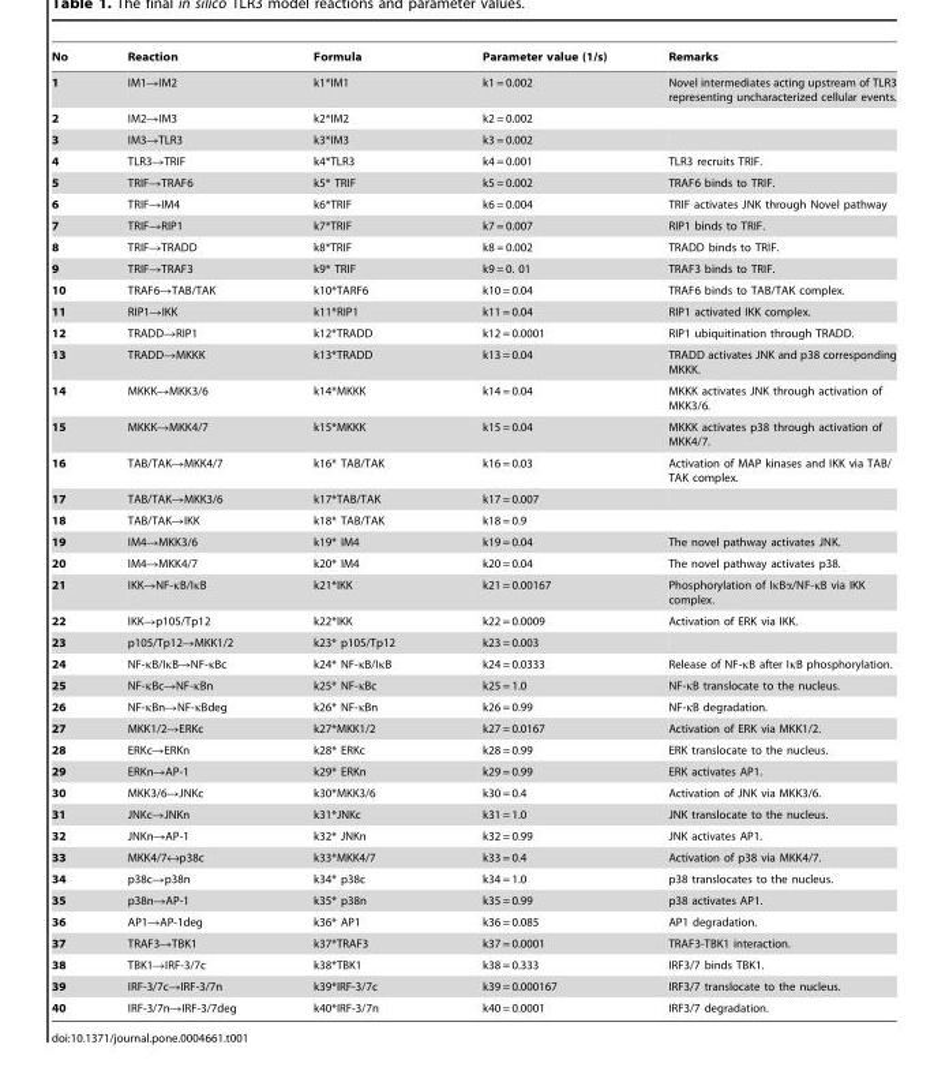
<table><thead><tr><td>No</td><td>Reaction</td><td>Formula</td><td>Parameter value (1/s)</td><td>Remarks</td></tr></thead><tbody><tr><td>1</td><td>IM1→IM2</td><td>k1*IM1</td><td>k1 = 0.002</td><td>Novel intermediates acting upstream of TLR3 representing uncharacterized cellular events.</td></tr><tr><td>2</td><td>IM2→IM3</td><td>k2*IM2</td><td>k2 = 0.002</td><td></td></tr><tr><td>3</td><td>IM3→TLR3</td><td>k3*IM3</td><td>k3 = 0.002</td><td></td></tr><tr><td>4</td><td>TLR3→TRIF</td><td>k4*TLR3</td><td>k4 = 0.001</td><td>TLR3 recruits TRIF.</td></tr><tr><td>5</td><td>TRIF→TRAF6</td><td>k5* TRIF</td><td>k5 = 0.002</td><td>TRAF6 binds to TRIF.</td></tr><tr><td>6</td><td>TRIF→IM4</td><td>k6*TRIF</td><td>k6 = 0.004</td><td>TRIF activates JNK through Novel pathway</td></tr><tr><td>7</td><td>TRIF→RIP1</td><td>k7*TRIF</td><td>k7 = 0.007</td><td>RIP1 binds to TRIF.</td></tr><tr><td>8</td><td>TRIF→TRADD</td><td>k8*TRIF</td><td>k8 = 0.002</td><td>TRADD binds to TRIF.</td></tr><tr><td>9</td><td>TRIF→TRAF3</td><td>k9* TRIF</td><td>k9 = 0. 01</td><td>TRAF3 binds to TRIF.</td></tr><tr><td>10</td><td>TRAF6→TAB/TAK</td><td>k10*TARF6</td><td>k10 = 0.04</td><td>TRAF6 binds to TAB/TAK complex.</td></tr><tr><td>11</td><td>RIP1→IKK</td><td>k11*RIP1</td><td>k11 = 0.04</td><td>RIP1 activated IKK complex.</td></tr><tr><td>12</td><td>TRADD→RIP1</td><td>k12*TRADD</td><td>k12 = 0.0001</td><td>RIP1 ubiquitination through TRADD.</td></tr><tr><td>13</td><td>TRADD→MKKK</td><td>k13*TRADD</td><td>k13 = 0.04</td><td>TRADD activates JNK and p38 corresponding MKKK.</td></tr><tr><td>14</td><td>MKKK→MKK3/6</td><td>k14*MKKK</td><td>k14 = 0.04</td><td>MKKK activates JNK through activation of MKK3/6.</td></tr><tr><td>15</td><td>MKKK→MKK4/7</td><td>k15*MKKK</td><td>k15 = 0.04</td><td>MKKK activates p38 through activation of MKK4/7.</td></tr><tr><td>16</td><td>TAB/TAK→MKK4/7</td><td>k16* TAB/TAK</td><td>k16 = 0.03</td><td>Activation of MAP kinases and IKK via TAB/ TAK complex.</td></tr><tr><td>17</td><td>TAB/TAK→MKK3/6</td><td>k17*TAB/TAK</td><td>k17 = 0.007</td><td></td></tr><tr><td>18</td><td>TAB/TAK→IKK</td><td>k18* TAB/TAK</td><td>k18 = 0.9</td><td></td></tr><tr><td>19</td><td>IM4→MKK3/6</td><td>k19* IM4</td><td>k19 = 0.04</td><td>The novel pathway activates JNK.</td></tr><tr><td>20</td><td>IM4→MKK4/7</td><td>k20* IM4</td><td>k20 = 0.04</td><td>The novel pathway activates p38.</td></tr><tr><td>21</td><td>IKK→NF-κB/IκB</td><td>k21*IKK</td><td>k21 = 0.00167</td><td>Phosphorylation of IκBα/NF-κB via IKK complex.</td></tr><tr><td>22</td><td>IKK→p105/Tp12</td><td>k22*IKK</td><td>k22 = 0.0009</td><td>Activation of ERK via IKK.</td></tr><tr><td>23</td><td>p105/Tp12→MKK1/2</td><td>k23* p105/Tp12</td><td>k23 = 0.003</td><td></td></tr><tr><td>24</td><td>NF-κB/IκB→NF-κBc</td><td>k24* NF-κB/IκB</td><td>k24 = 0.0333</td><td>Release of NF-κB after IκB phosphorylation.</td></tr><tr><td>25</td><td>NF-κBc→NF-κBn</td><td>k25* NF-κBc</td><td>k25 = 1.0</td><td>NF-κB translocate to the nucleus.</td></tr><tr><td>26</td><td>NF-κBn→NF-κBdeg</td><td>k26* NF-κBn</td><td>k26 = 0.99</td><td>NF-κB degradation.</td></tr><tr><td>27</td><td>MKK1/2→ERKc</td><td>k27*MKK1/2</td><td>k27 = 0.0167</td><td>Activation of ERK via MKK1/2.</td></tr><tr><td>28</td><td>ERKc→ERKn</td><td>k28* ERKc</td><td>k28 = 0.99</td><td>ERK translocate to the nucleus.</td></tr><tr><td>29</td><td>ERKn→AP-1</td><td>k29* ERKn</td><td>k29 = 0.99</td><td>ERK activates AP1.</td></tr><tr><td>30</td><td>MKK3/6→JNKc</td><td>k30*MKK3/6</td><td>k30 = 0.4</td><td>Activation of JNK via MKK3/6.</td></tr><tr><td>31</td><td>JNKc→JNKn</td><td>k31*JNKc</td><td>k31 = 1.0</td><td>JNK translocate to the nucleus.</td></tr><tr><td>32</td><td>JNKn→AP-1</td><td>k32* JNKn</td><td>k32 = 0.99</td><td>JNK activates AP1.</td></tr><tr><td>33</td><td>MKK4/7↔p38c</td><td>k33*MKK4/7</td><td>k33 = 0.4</td><td>Activation of p38 via MKK4/7.</td></tr><tr><td>34</td><td>p38c→p38n</td><td>k34* p38c</td><td>k34 = 1.0</td><td>p38 translocates to the nucleus.</td></tr><tr><td>35</td><td>p38n→AP-1</td><td>k35* p38n</td><td>k35 = 0.99</td><td>p38 activates AP1.</td></tr><tr><td>36</td><td>AP1→AP-1deg</td><td>k36* AP1</td><td>k36 = 0.085</td><td>AP1 degradation.</td></tr><tr><td>37</td><td>TRAF3→TBK1</td><td>k37*TRAF3</td><td>k37 = 0.0001</td><td>TRAF3-TBK1 interaction.</td></tr><tr><td>38</td><td>TBK1→IRF-3/7c</td><td>k38*TBK1</td><td>k38 = 0.333</td><td>IRF3/7 binds TBK1.</td></tr><tr><td>39</td><td>IRF-3/7c→IRF-3/7n</td><td>k39*IRF-3/7c</td><td>k39 = 0.000167</td><td>IRF3/7 translocate to the nucleus.</td></tr><tr><td>40</td><td>IRF-3/7n→IRF-3/7deg</td><td>k40*IRF-3/7n</td><td>k40 = 0.0001</td><td>IRF3/7 degradation.</td></tr></tbody></table>